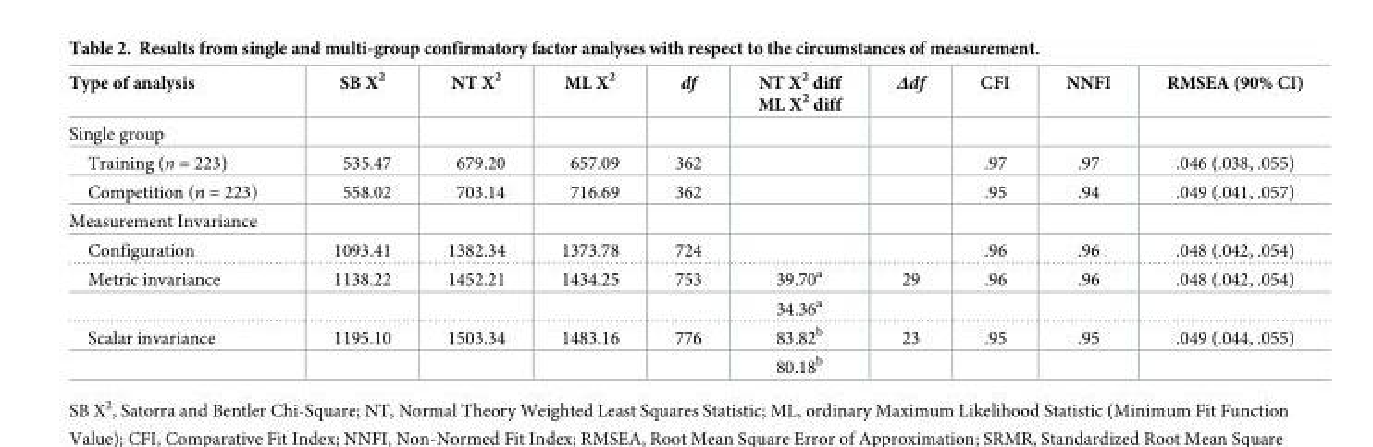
<table><thead><tr><td>Type of analysis</td><td>SB X<sup>2</sup></td><td>NT X<sup>2</sup></td><td>ML X<sup>2</sup></td><td>df</td><td>NT X<sup>2</sup> diff ML X<sup>2</sup> diff</td><td>Δdf</td><td>CFI</td><td>NNFI</td><td>RMSEA (90% CI)</td></tr></thead><tbody><tr><td colspan="10">Single group</td></tr><tr><td>Training (n = 223)</td><td>535.47</td><td>679.20</td><td>657.09</td><td>362</td><td></td><td></td><td>.97</td><td>.97</td><td>.046 (.038, .055)</td></tr><tr><td>Competition (n = 223)</td><td>558.02</td><td>703.14</td><td>716.69</td><td>362</td><td></td><td></td><td>.95</td><td>.94</td><td>.049 (.041, .057)</td></tr><tr><td colspan="10">Measurement Invariance</td></tr><tr><td>Configuration</td><td>1093.41</td><td>1382.34</td><td>1373.78</td><td>724</td><td></td><td></td><td>.96</td><td>.96</td><td>.048 (.042, .054)</td></tr><tr><td rowspan="2">Metric invariance</td><td>1138.22</td><td>1452.21</td><td>1434.25</td><td>753</td><td>39.70<sup>a</sup></td><td>29</td><td>.96</td><td>.96</td><td>.048 (.042, .054)</td></tr><tr><td></td><td></td><td></td><td></td><td>34.36<sup>a</sup></td><td></td><td></td><td></td><td></td></tr><tr><td rowspan="2">Scalar invariance</td><td>1195.10</td><td>1503.34</td><td>1483.16</td><td>776</td><td>83.82<sup>b</sup></td><td>23</td><td>.95</td><td>.95</td><td>.049 (.044, .055)</td></tr><tr><td></td><td></td><td></td><td></td><td>80.18<sup>b</sup></td><td></td><td></td><td></td><td></td></tr></tbody></table>